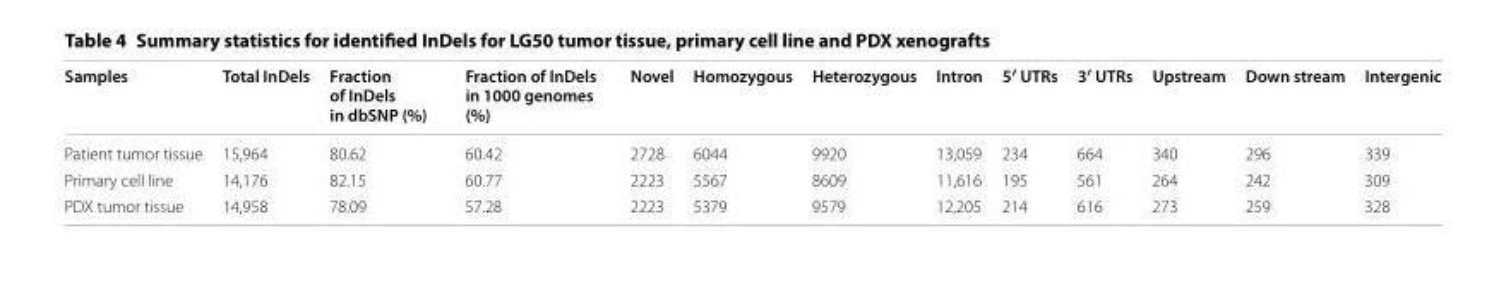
<table><thead><tr><td>Samples</td><td>Total InDels</td><td>Fraction of InDels in dbSNP (%)</td><td>Fraction of InDels in 1000 genomes (%)</td><td>Novel</td><td>Homozygous</td><td>Heterozygous</td><td>Intron</td><td>5′ UTRs</td><td>3′ UTRs</td><td>Upstream</td><td>Down stream</td><td>Intergenic</td></tr></thead><tbody><tr><td>Patient tumor tissue</td><td>15,964</td><td>80.62</td><td>60.42</td><td>2728</td><td>6044</td><td>9920</td><td>13,059</td><td>234</td><td>664</td><td>340</td><td>296</td><td>339</td></tr><tr><td>Primary cell line</td><td>14,176</td><td>82.15</td><td>60.77</td><td>2223</td><td>5567</td><td>8609</td><td>11,616</td><td>195</td><td>561</td><td>264</td><td>242</td><td>309</td></tr><tr><td>PDX tumor tissue</td><td>14,958</td><td>78.09</td><td>57.28</td><td>2223</td><td>5379</td><td>9579</td><td>12,205</td><td>214</td><td>616</td><td>273</td><td>259</td><td>328</td></tr></tbody></table>